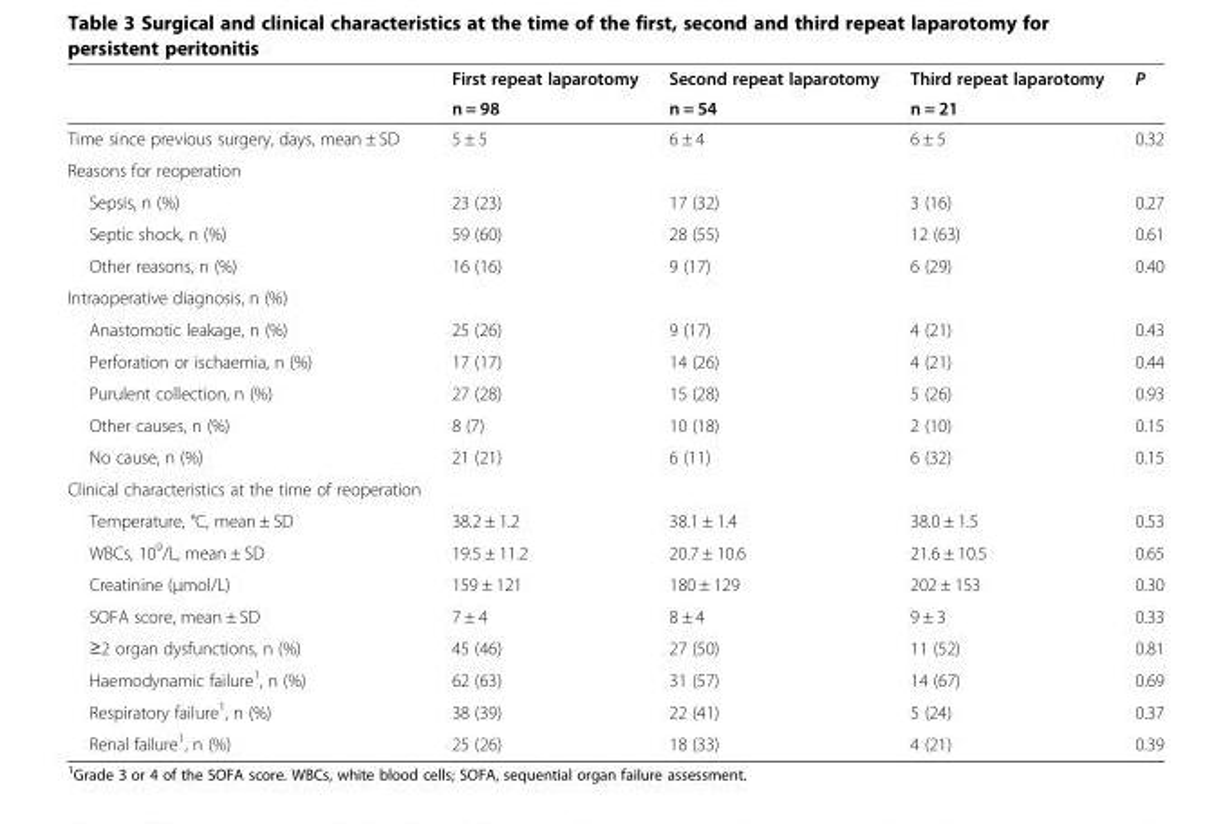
<table><thead><tr><td rowspan="2"></td><td rowspan="2">First repeat laparotomy n = 98</td><td rowspan="2">Second repeat laparotomy n = 54</td><td rowspan="2">Third repeat laparotomy n = 21</td><td rowspan="2">P</td></tr><tr></tr></thead><tbody><tr><td>Time since previous surgery, days, mean ± SD</td><td>5 ± 5</td><td>6 ± 4</td><td>6 ± 5</td><td>0.32</td></tr><tr><td colspan="5">Reasons for reoperation</td></tr><tr><td>Sepsis, n (%)</td><td>23 (23)</td><td>17 (32)</td><td>3 (16)</td><td>0.27</td></tr><tr><td>Septic shock, n (%)</td><td>59 (60)</td><td>28 (55)</td><td>12 (63)</td><td>0.61</td></tr><tr><td>Other reasons, n (%)</td><td>16 (16)</td><td>9 (17)</td><td>6 (29)</td><td>0.40</td></tr><tr><td colspan="5">Intraoperative diagnosis, n (%)</td></tr><tr><td>Anastomotic leakage, n (%)</td><td>25 (26)</td><td>9 (17)</td><td>4 (21)</td><td>0.43</td></tr><tr><td>Perforation or ischaemia, n (%)</td><td>17 (17)</td><td>14 (26)</td><td>4 (21)</td><td>0.44</td></tr><tr><td>Purulent collection, n (%)</td><td>27 (28)</td><td>15 (28)</td><td>5 (26)</td><td>0.93</td></tr><tr><td>Other causes, n (%)</td><td>8 (7)</td><td>10 (18)</td><td>2 (10)</td><td>0.15</td></tr><tr><td>No cause, n (%)</td><td>21 (21)</td><td>6 (11)</td><td>6 (32)</td><td>0.15</td></tr><tr><td colspan="5">Clinical characteristics at the time of reoperation</td></tr><tr><td>Temperature, °C, mean ± SD</td><td>38.2 ± 1.2</td><td>38.1 ± 1.4</td><td>38.0 ± 1.5</td><td>0.53</td></tr><tr><td>WBCs, 10<sup>9</sup>/L, mean ± SD</td><td>19.5 ± 11.2</td><td>20.7 ± 10.6</td><td>21.6 ± 10.5</td><td>0.65</td></tr><tr><td>Creatinine (μmol/L)</td><td>159 ± 121</td><td>180 ± 129</td><td>202 ± 153</td><td>0.30</td></tr><tr><td>SOFA score, mean ± SD</td><td>7 ± 4</td><td>8 ± 4</td><td>9 ± 3</td><td>0.33</td></tr><tr><td>≥2 organ dysfunctions, n (%)</td><td>45 (46)</td><td>27 (50)</td><td>11 (52)</td><td>0.81</td></tr><tr><td>Haemodynamic failure<sup>1</sup>, n (%)</td><td>62 (63)</td><td>31 (57)</td><td>14 (67)</td><td>0.69</td></tr><tr><td>Respiratory failure<sup>1</sup>, n (%)</td><td>38 (39)</td><td>22 (41)</td><td>5 (24)</td><td>0.37</td></tr><tr><td>Renal failure<sup>1</sup>, n (%)</td><td>25 (26)</td><td>18 (33)</td><td>4 (21)</td><td>0.39</td></tr></tbody></table>